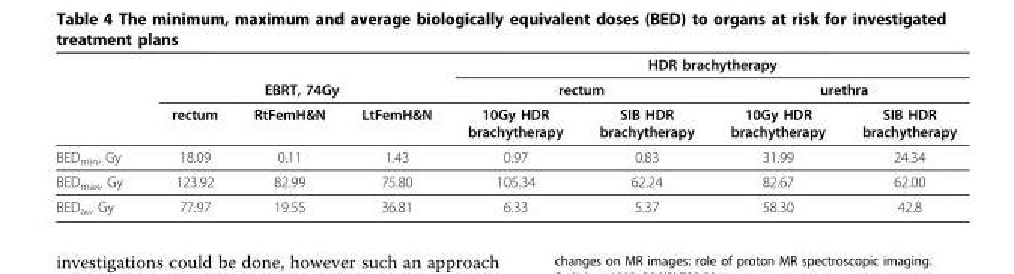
<table><thead><tr><td rowspan="3"></td><td></td><td></td><td></td><td colspan="4">HDR brachytherapy</td></tr><tr><td colspan="3">EBRT, 74Gy</td><td colspan="2">rectum</td><td colspan="2">urethra</td></tr><tr><td>rectum</td><td>RtFemH&amp;N</td><td>LtFemH&amp;N</td><td>10Gy HDR brachytherapy</td><td>SIB HDR brachytherapy</td><td>10Gy HDR brachytherapy</td><td>SIB HDR brachytherapy</td></tr></thead><tbody><tr><td>BED<sub>min</sub>, Gy</td><td>18.09</td><td>0.11</td><td>1.43</td><td>0.97</td><td>0.83</td><td>31.99</td><td>24.34</td></tr><tr><td>BED<sub>max</sub>, Gy</td><td>123.92</td><td>82.99</td><td>75.80</td><td>105.34</td><td>62.24</td><td>82.67</td><td>62.00</td></tr><tr><td>BED<sub>av</sub>, Gy</td><td>77.97</td><td>19.55</td><td>36.81</td><td>6.33</td><td>5.37</td><td>58.30</td><td>42.8</td></tr></tbody></table>